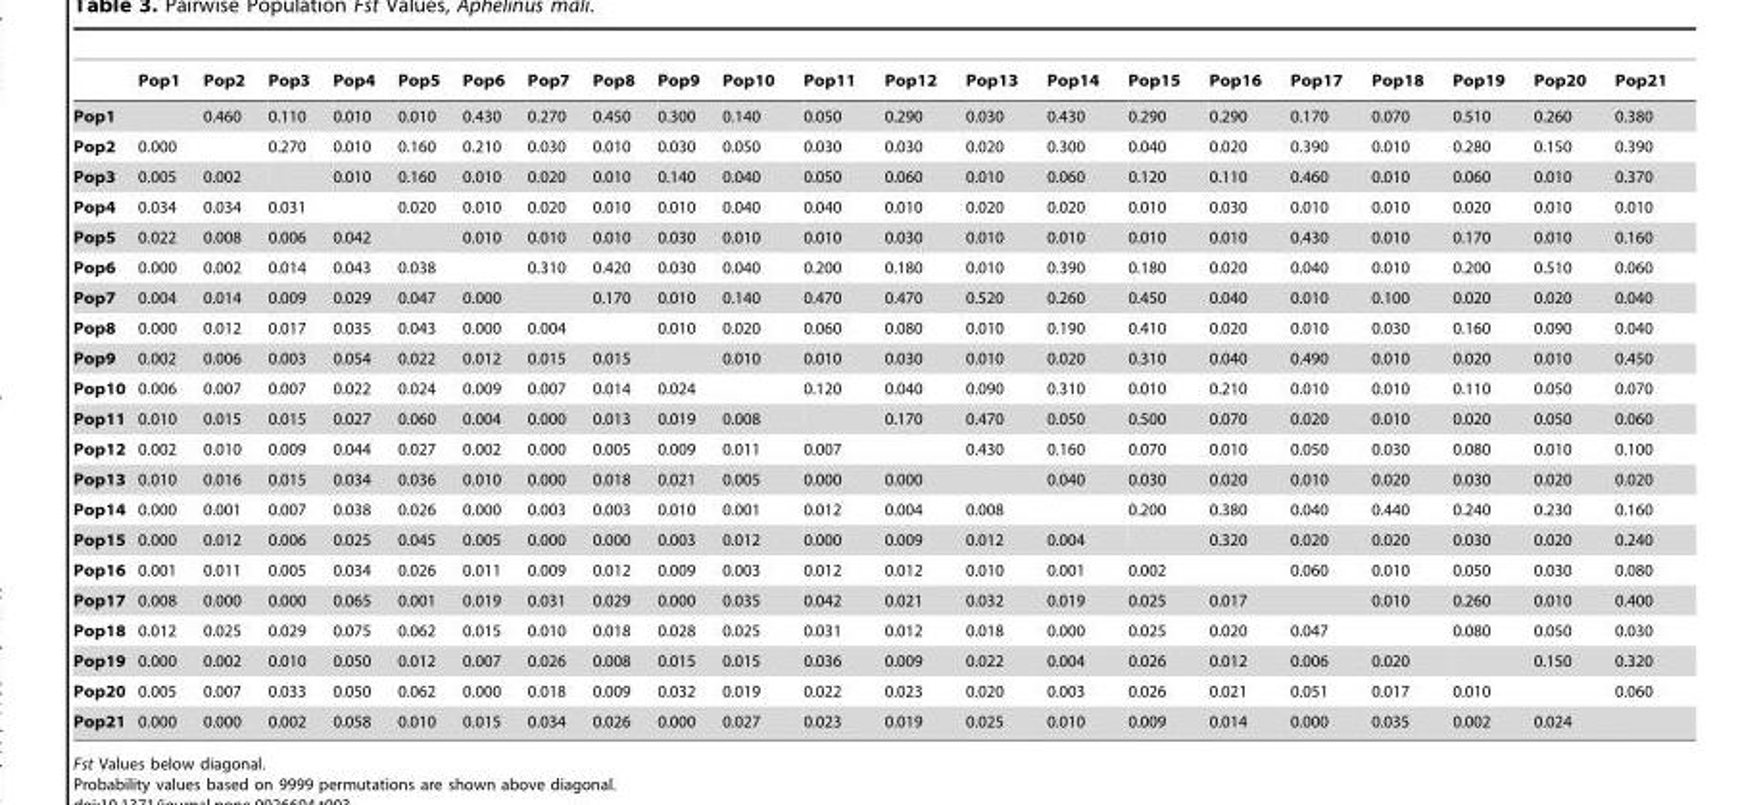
<table><thead><tr><td></td><td>Pop1</td><td>Pop2</td><td>Pop3</td><td>Pop4</td><td>Pop5</td><td>Pop6</td><td>Pop7</td><td>Pop8</td><td>Pop9</td><td>Pop10</td><td>Pop11</td><td>Pop12</td><td>Pop13</td><td>Pop14</td><td>Pop15</td><td>Pop16</td><td>Pop17</td><td>Pop18</td><td>Pop19</td><td>Pop20</td><td>Pop21</td></tr></thead><tbody><tr><td>Pop1</td><td></td><td>0.460</td><td>0.110</td><td>0.010</td><td>0.010</td><td>0.430</td><td>0.270</td><td>0.450</td><td>0.300</td><td>0.140</td><td>0.050</td><td>0.290</td><td>0.030</td><td>0.430</td><td>0.290</td><td>0.290</td><td>0.170</td><td>0.070</td><td>0.510</td><td>0.260</td><td>0.380</td></tr><tr><td>Pop2</td><td>0.000</td><td></td><td>0.270</td><td>0.010</td><td>0.160</td><td>0.210</td><td>0.030</td><td>0.010</td><td>0.030</td><td>0.050</td><td>0.030</td><td>0.030</td><td>0.020</td><td>0.300</td><td>0.040</td><td>0.020</td><td>0.390</td><td>0.010</td><td>0.280</td><td>0.150</td><td>0.390</td></tr><tr><td>Pop3</td><td>0.005</td><td>0.002</td><td></td><td>0.010</td><td>0.160</td><td>0.010</td><td>0.020</td><td>0.010</td><td>0.140</td><td>0.040</td><td>0.050</td><td>0.060</td><td>0.010</td><td>0.060</td><td>0.120</td><td>0.110</td><td>0.460</td><td>0.010</td><td>0.060</td><td>0.010</td><td>0.370</td></tr><tr><td>Pop4</td><td>0.034</td><td>0.034</td><td>0.031</td><td></td><td>0.020</td><td>0.010</td><td>0.020</td><td>0.010</td><td>0.010</td><td>0.040</td><td>0.040</td><td>0.010</td><td>0.020</td><td>0.020</td><td>0.010</td><td>0.030</td><td>0.010</td><td>0.010</td><td>0.020</td><td>0.010</td><td>0.010</td></tr><tr><td>Pop5</td><td>0.022</td><td>0.008</td><td>0.006</td><td>0.042</td><td></td><td>0.010</td><td>0.010</td><td>0.010</td><td>0.030</td><td>0.010</td><td>0.010</td><td>0.030</td><td>0.010</td><td>0.010</td><td>0.010</td><td>0.010</td><td>0.430</td><td>0.010</td><td>0.170</td><td>0.010</td><td>0.160</td></tr><tr><td>Pop6</td><td>0.000</td><td>0.002</td><td>0.014</td><td>0.043</td><td>0.038</td><td></td><td>0.310</td><td>0.420</td><td>0.030</td><td>0.040</td><td>0.200</td><td>0.180</td><td>0.010</td><td>0.390</td><td>0.180</td><td>0.020</td><td>0.040</td><td>0.010</td><td>0.200</td><td>0.510</td><td>0.060</td></tr><tr><td>Pop7</td><td>0.004</td><td>0.014</td><td>0.009</td><td>0.029</td><td>0.047</td><td>0.000</td><td></td><td>0.170</td><td>0.010</td><td>0.140</td><td>0.470</td><td>0.470</td><td>0.520</td><td>0.260</td><td>0.450</td><td>0.040</td><td>0.010</td><td>0.100</td><td>0.020</td><td>0.020</td><td>0.040</td></tr><tr><td>Pop8</td><td>0.000</td><td>0.012</td><td>0.017</td><td>0.035</td><td>0.043</td><td>0.000</td><td>0.004</td><td></td><td>0.010</td><td>0.020</td><td>0.060</td><td>0.080</td><td>0.010</td><td>0.190</td><td>0.410</td><td>0.020</td><td>0.010</td><td>0.030</td><td>0.160</td><td>0.090</td><td>0.040</td></tr><tr><td>Pop9</td><td>0.002</td><td>0.006</td><td>0.003</td><td>0.054</td><td>0.022</td><td>0.012</td><td>0.015</td><td>0.015</td><td></td><td>0.010</td><td>0.010</td><td>0.030</td><td>0.010</td><td>0.020</td><td>0.310</td><td>0.040</td><td>0.490</td><td>0.010</td><td>0.020</td><td>0.010</td><td>0.450</td></tr><tr><td>Pop10</td><td>0.006</td><td>0.007</td><td>0.007</td><td>0.022</td><td>0.024</td><td>0.009</td><td>0.007</td><td>0.014</td><td>0.024</td><td></td><td>0.120</td><td>0.040</td><td>0.090</td><td>0.310</td><td>0.010</td><td>0.210</td><td>0.010</td><td>0.010</td><td>0.110</td><td>0.050</td><td>0.070</td></tr><tr><td>Pop11</td><td>0.010</td><td>0.015</td><td>0.015</td><td>0.027</td><td>0.060</td><td>0.004</td><td>0.000</td><td>0.013</td><td>0.019</td><td>0.008</td><td></td><td>0.170</td><td>0.470</td><td>0.050</td><td>0.500</td><td>0.070</td><td>0.020</td><td>0.010</td><td>0.020</td><td>0.050</td><td>0.060</td></tr><tr><td>Pop12</td><td>0.002</td><td>0.010</td><td>0.009</td><td>0.044</td><td>0.027</td><td>0.002</td><td>0.000</td><td>0.005</td><td>0.009</td><td>0.011</td><td>0.007</td><td></td><td>0.430</td><td>0.160</td><td>0.070</td><td>0.010</td><td>0.050</td><td>0.030</td><td>0.080</td><td>0.010</td><td>0.100</td></tr><tr><td>Pop13</td><td>0.010</td><td>0.016</td><td>0.015</td><td>0.034</td><td>0.036</td><td>0.010</td><td>0.000</td><td>0.018</td><td>0.021</td><td>0.005</td><td>0.000</td><td>0.000</td><td></td><td>0.040</td><td>0.030</td><td>0.020</td><td>0.010</td><td>0.020</td><td>0.030</td><td>0.020</td><td>0.020</td></tr><tr><td>Pop14</td><td>0.000</td><td>0.001</td><td>0.007</td><td>0.038</td><td>0.026</td><td>0.000</td><td>0.003</td><td>0.003</td><td>0.010</td><td>0.001</td><td>0.012</td><td>0.004</td><td>0.008</td><td></td><td>0.200</td><td>0.380</td><td>0.040</td><td>0.440</td><td>0.240</td><td>0.230</td><td>0.160</td></tr><tr><td>Pop15</td><td>0.000</td><td>0.012</td><td>0.006</td><td>0.025</td><td>0.045</td><td>0.005</td><td>0.000</td><td>0.000</td><td>0.003</td><td>0.012</td><td>0.000</td><td>0.009</td><td>0.012</td><td>0.004</td><td></td><td>0.320</td><td>0.020</td><td>0.020</td><td>0.030</td><td>0.020</td><td>0.240</td></tr><tr><td>Pop16</td><td>0.001</td><td>0.011</td><td>0.005</td><td>0.034</td><td>0.026</td><td>0.011</td><td>0.009</td><td>0.012</td><td>0.009</td><td>0.003</td><td>0.012</td><td>0.012</td><td>0.010</td><td>0.001</td><td>0.002</td><td></td><td>0.060</td><td>0.010</td><td>0.050</td><td>0.030</td><td>0.080</td></tr><tr><td>Pop17</td><td>0.008</td><td>0.000</td><td>0.000</td><td>0.065</td><td>0.001</td><td>0.019</td><td>0.031</td><td>0.029</td><td>0.000</td><td>0.035</td><td>0.042</td><td>0.021</td><td>0.032</td><td>0.019</td><td>0.025</td><td>0.017</td><td></td><td>0.010</td><td>0.260</td><td>0.010</td><td>0.400</td></tr><tr><td>Pop18</td><td>0.012</td><td>0.025</td><td>0.029</td><td>0.075</td><td>0.062</td><td>0.015</td><td>0.010</td><td>0.018</td><td>0.028</td><td>0.025</td><td>0.031</td><td>0.012</td><td>0.018</td><td>0.000</td><td>0.025</td><td>0.020</td><td>0.047</td><td></td><td>0.080</td><td>0.050</td><td>0.030</td></tr><tr><td>Pop19</td><td>0.000</td><td>0.002</td><td>0.010</td><td>0.050</td><td>0.012</td><td>0.007</td><td>0.026</td><td>0.008</td><td>0.015</td><td>0.015</td><td>0.036</td><td>0.009</td><td>0.022</td><td>0.004</td><td>0.026</td><td>0.012</td><td>0.006</td><td>0.020</td><td></td><td>0.150</td><td>0.320</td></tr><tr><td>Pop20</td><td>0.005</td><td>0.007</td><td>0.033</td><td>0.050</td><td>0.062</td><td>0.000</td><td>0.018</td><td>0.009</td><td>0.032</td><td>0.019</td><td>0.022</td><td>0.023</td><td>0.020</td><td>0.003</td><td>0.026</td><td>0.021</td><td>0.051</td><td>0.017</td><td>0.010</td><td></td><td>0.060</td></tr><tr><td>Pop21</td><td>0.000</td><td>0.000</td><td>0.002</td><td>0.058</td><td>0.010</td><td>0.015</td><td>0.034</td><td>0.026</td><td>0.000</td><td>0.027</td><td>0.023</td><td>0.019</td><td>0.025</td><td>0.010</td><td>0.009</td><td>0.014</td><td>0.000</td><td>0.035</td><td>0.002</td><td>0.024</td><td></td></tr></tbody></table>